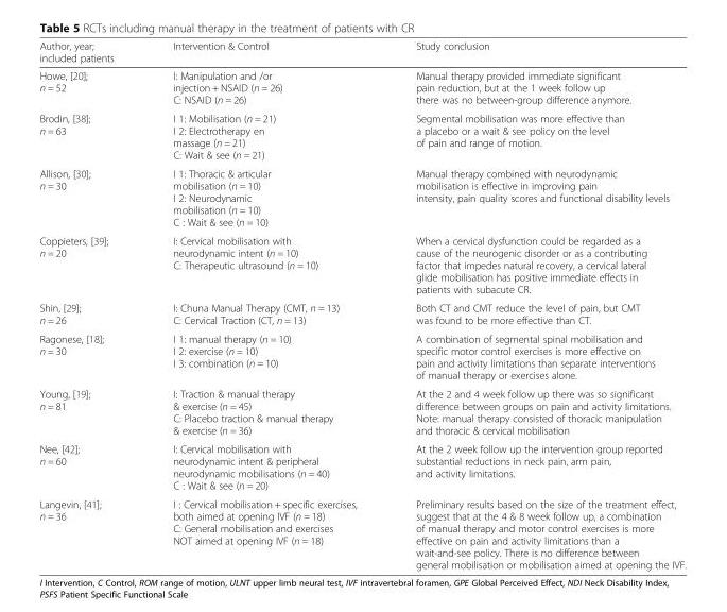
<table><thead><tr><td>Author, year; included patients</td><td>Intervention &amp; Control</td><td>Study conclusion</td></tr></thead><tbody><tr><td>Howe, [20]; n = 52</td><td>I: Manipulation and /or injection + NSAID (n = 26) C: NSAID (n = 26)</td><td>Manual therapy provided immediate significant pain reduction, but at the 1 week follow up there was no between-group difference anymore.</td></tr><tr><td>Brodin, [38]; n = 63</td><td>I 1: Mobilisation (n = 21) I 2: Electrotherapy en massage (n = 21) C: Wait &amp; see (n = 21)</td><td>Segmental mobilisation was more effective than a placebo or a wait &amp; see policy on the level of pain and range of motion.</td></tr><tr><td>Allison, [30]; n = 30</td><td>I 1: Thoracic &amp; articular mobilisation (n = 10) I 2: Neurodynamic mobilisation (n = 10) C : Wait &amp; see (n = 10)</td><td>Manual therapy combined with neurodynamic mobilisation is effective in improving pain intensity, pain quality scores and functional disability levels</td></tr><tr><td>Coppieters, [39]; n = 20</td><td>I: Cervical mobilisation with neurodynamic intent (n = 10) C: Therapeutic ultrasound (n = 10)</td><td>When a cervical dysfunction could be regarded as a cause of the neurogenic disorder or as a contributing factor that impedes natural recovery, a cervical lateral glide mobilisation has positive immediate effects in patients with subacute CR.</td></tr><tr><td>Shin, [29]; n = 26</td><td>I: Chuna Manual Therapy (CMT, n = 13) C: Cervical Traction (CT, n = 13)</td><td>Both CT and CMT reduce the level of pain, but CMT was found to be more effective than CT.</td></tr><tr><td>Ragonese, [18]; n = 30</td><td>I 1: manual therapy (n = 10) I 2: exercise (n = 10) I 3: combination (n = 10)</td><td>A combination of segmental spinal mobilisation and specific motor control exercises is more effective on pain and activity limitations than separate interventions of manual therapy or exercises alone.</td></tr><tr><td>Young, [19]; n = 81</td><td>I: Traction &amp; manual therapy &amp; exercise (n = 45) C: Placebo traction &amp; manual therapy &amp; exercise (n = 36)</td><td>At the 2 and 4 week follow up there was so significant difference between groups on pain and activity limitations. Note: manual therapy consisted of thoracic manipulation and thoracic &amp; cervical mobilisation</td></tr><tr><td>Nee, [42]; n = 60</td><td>I: Cervical mobilisation with neurodynamic intent &amp; peripheral neurodynamic mobilisations (n = 40) C : Wait &amp; see (n = 20)</td><td>At the 2 week follow up the intervention group reported substantial reductions in neck pain, arm pain, and activity limitations.</td></tr><tr><td>Langevin, [41]; n = 36</td><td>I : Cervical mobilisation + specific exercises, both aimed at opening IVF (n = 18) C: General mobilisation and exercises NOT aimed at opening IVF (n = 18)</td><td>Preliminary results based on the size of the treatment effect, suggest that at the 4 &amp; 8 week follow up, a combination of manual therapy and motor control exercises is more effective on pain and activity limitations than a wait-and-see policy. There is no difference between general mobilisation or mobilisation aimed at opening the IVF.</td></tr></tbody></table>